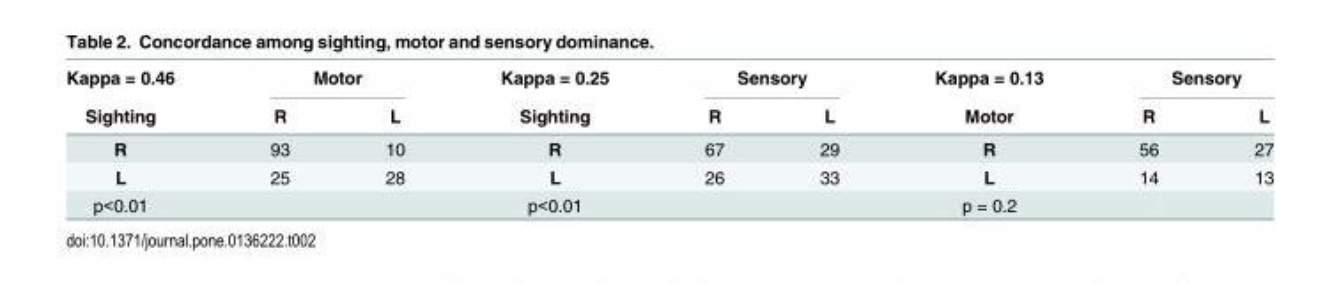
<table><thead><tr><td rowspan="2">Kappa = 0.46 Sighting</td><td colspan="2">Motor</td><td rowspan="2">Kappa = 0.25 Sighting</td><td colspan="2">Sensory</td><td rowspan="2">Kappa = 0.13 Motor</td><td colspan="2">Sensory</td></tr><tr><td>R</td><td>L</td><td>R</td><td>L</td><td>R</td><td>L</td></tr></thead><tbody><tr><td>R</td><td>93</td><td>10</td><td>R</td><td>67</td><td>29</td><td>R</td><td>56</td><td>27</td></tr><tr><td>L</td><td>25</td><td>28</td><td>L</td><td>26</td><td>33</td><td>L</td><td>14</td><td>13</td></tr><tr><td>p&lt;0.01</td><td></td><td></td><td>p&lt;0.01</td><td></td><td></td><td>p = 0.2</td><td></td><td></td></tr></tbody></table>